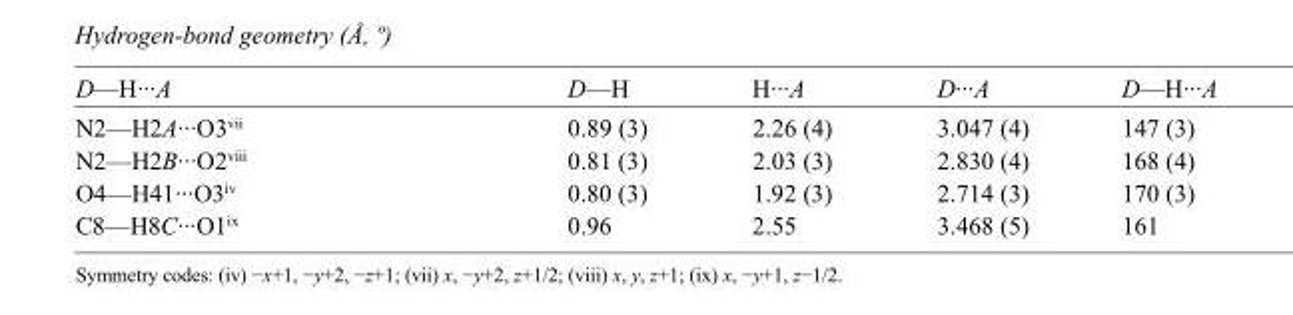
<table><tbody><tr><td>D—H···A</td><td>D—H</td><td>H···A</td><td>D···A</td><td>D—H···A</td></tr><tr><td>N2—H2A···O3<sup>vii</sup></td><td>0.89 (3)</td><td>2.26 (4)</td><td>3.047 (4)</td><td>147 (3)</td></tr><tr><td>N2—H2B···O2<sup>viii</sup></td><td>0.81 (3)</td><td>2.03 (3)</td><td>2.830 (4)</td><td>168 (4)</td></tr><tr><td>O4—H41···O3<sup>iv</sup></td><td>0.80 (3)</td><td>1.92 (3)</td><td>2.714 (3)</td><td>170 (3)</td></tr><tr><td>C8—H8C···O1<sup>ix</sup></td><td>0.96</td><td>2.55</td><td>3.468 (5)</td><td>161</td></tr></tbody></table>